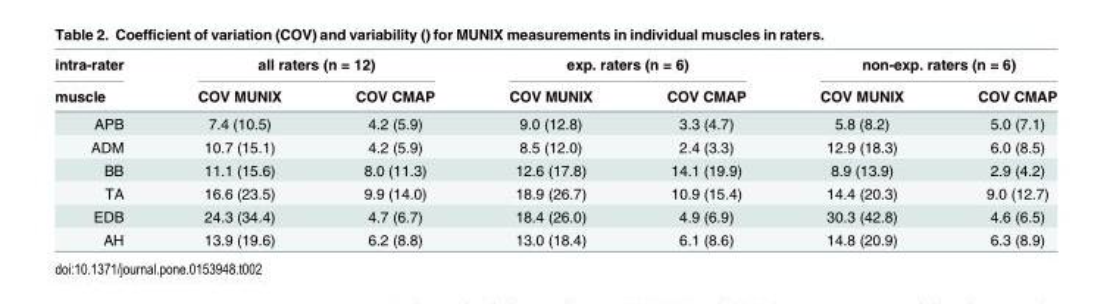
<table><thead><tr><td rowspan="2">intra-rater muscle</td><td colspan="2">all raters (n = 12)</td><td colspan="2">exp. raters (n = 6)</td><td colspan="2">non-exp. raters (n = 6)</td></tr><tr><td>COV MUNIX</td><td>COV CMAP</td><td>COV MUNIX</td><td>COV CMAP</td><td>COV MUNIX</td><td>COV CMAP</td></tr></thead><tbody><tr><td>APB</td><td>7.4 (10.5)</td><td>4.2 (5.9)</td><td>9.0 (12.8)</td><td>3.3 (4.7)</td><td>5.8 (8.2)</td><td>5.0 (7.1)</td></tr><tr><td>ADM</td><td>10.7 (15.1)</td><td>4.2 (5.9)</td><td>8.5 (12.0)</td><td>2.4 (3.3)</td><td>12.9 (18.3)</td><td>6.0 (8.5)</td></tr><tr><td>BB</td><td>11.1 (15.6)</td><td>8.0 (11.3)</td><td>12.6 (17.8)</td><td>14.1 (19.9)</td><td>8.9 (13.9)</td><td>2.9 (4.2)</td></tr><tr><td>TA</td><td>16.6 (23.5)</td><td>9.9 (14.0)</td><td>18.9 (26.7)</td><td>10.9 (15.4)</td><td>14.4 (20.3)</td><td>9.0 (12.7)</td></tr><tr><td>EDB</td><td>24.3 (34.4)</td><td>4.7 (6.7)</td><td>18.4 (26.0)</td><td>4.9 (6.9)</td><td>30.3 (42.8)</td><td>4.6 (6.5)</td></tr><tr><td>AH</td><td>13.9 (19.6)</td><td>6.2 (8.8)</td><td>13.0 (18.4)</td><td>6.1 (8.6)</td><td>14.8 (20.9)</td><td>6.3 (8.9)</td></tr></tbody></table>